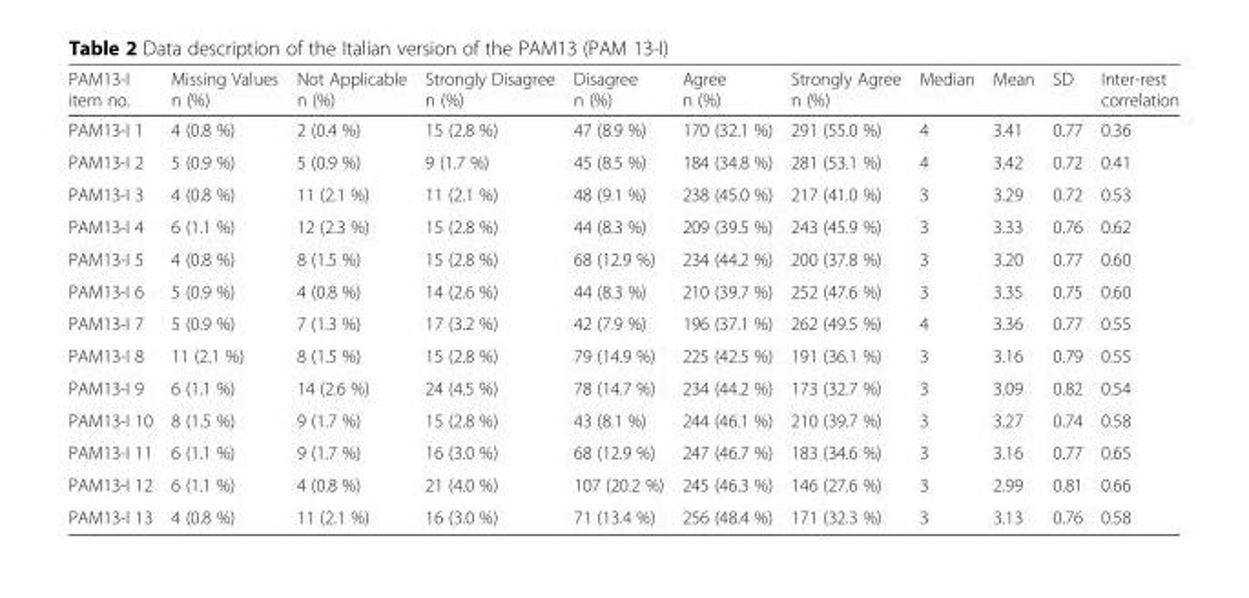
<table><thead><tr><td>PAM13-I item no.</td><td>Missing Values n (%)</td><td>Not Applicable n (%)</td><td>Strongly Disagree n (%)</td><td>Disagree n (%)</td><td>Agree n (%)</td><td>Strongly Agree n (%)</td><td>Median</td><td>Mean</td><td>SD</td><td>Inter-rest correlation</td></tr></thead><tbody><tr><td>PAM13-I 1</td><td>4 (0.8 %)</td><td>2 (0.4 %)</td><td>15 (2.8 %)</td><td>47 (8.9 %)</td><td>170 (32.1 %)</td><td>291 (55.0 %)</td><td>4</td><td>3.41</td><td>0.77</td><td>0.36</td></tr><tr><td>PAM13-I 2</td><td>5 (0.9 %)</td><td>5 (0.9 %)</td><td>9 (1.7 %)</td><td>45 (8.5 %)</td><td>184 (34.8 %)</td><td>281 (53.1 %)</td><td>4</td><td>3.42</td><td>0.72</td><td>0.41</td></tr><tr><td>PAM13-I 3</td><td>4 (0.8 %)</td><td>11 (2.1 %)</td><td>11 (2.1 %)</td><td>48 (9.1 %)</td><td>238 (45.0 %)</td><td>217 (41.0 %)</td><td>3</td><td>3.29</td><td>0.72</td><td>0.53</td></tr><tr><td>PAM13-I 4</td><td>6 (1.1 %)</td><td>12 (2.3 %)</td><td>15 (2.8 %)</td><td>44 (8.3 %)</td><td>209 (39.5 %)</td><td>243 (45.9 %)</td><td>3</td><td>3.33</td><td>0.76</td><td>0.62</td></tr><tr><td>PAM13-I 5</td><td>4 (0.8 %)</td><td>8 (1.5 %)</td><td>15 (2.8 %)</td><td>68 (12.9 %)</td><td>234 (44.2 %)</td><td>200 (37.8 %)</td><td>3</td><td>3.20</td><td>0.77</td><td>0.60</td></tr><tr><td>PAM13-I 6</td><td>5 (0.9 %)</td><td>4 (0.8 %)</td><td>14 (2.6 %)</td><td>44 (8.3 %)</td><td>210 (39.7 %)</td><td>252 (47.6 %)</td><td>3</td><td>3.35</td><td>0.75</td><td>0.60</td></tr><tr><td>PAM13-I 7</td><td>5 (0.9 %)</td><td>7 (1.3 %)</td><td>17 (3.2 %)</td><td>42 (7.9 %)</td><td>196 (37.1 %)</td><td>262 (49.5 %)</td><td>4</td><td>3.36</td><td>0.77</td><td>0.55</td></tr><tr><td>PAM13-I 8</td><td>11 (2.1 %)</td><td>8 (1.5 %)</td><td>15 (2.8 %)</td><td>79 (14.9 %)</td><td>225 (42.5 %)</td><td>191 (36.1 %)</td><td>3</td><td>3.16</td><td>0.79</td><td>0.55</td></tr><tr><td>PAM13-I 9</td><td>6 (1.1 %)</td><td>14 (2.6 %)</td><td>24 (4.5 %)</td><td>78 (14.7 %)</td><td>234 (44.2 %)</td><td>173 (32.7 %)</td><td>3</td><td>3.09</td><td>0.82</td><td>0.54</td></tr><tr><td>PAM13-I 10</td><td>8 (1.5 %)</td><td>9 (1.7 %)</td><td>15 (2.8 %)</td><td>43 (8.1 %)</td><td>244 (46.1 %)</td><td>210 (39.7 %)</td><td>3</td><td>3.27</td><td>0.74</td><td>0.58</td></tr><tr><td>PAM13-I 11</td><td>6 (1.1 %)</td><td>9 (1.7 %)</td><td>16 (3.0 %)</td><td>68 (12.9 %)</td><td>247 (46.7 %)</td><td>183 (34.6 %)</td><td>3</td><td>3.16</td><td>0.77</td><td>0.65</td></tr><tr><td>PAM13-I 12</td><td>6 (1.1 %)</td><td>4 (0.8 %)</td><td>21 (4.0 %)</td><td>107 (20.2 %)</td><td>245 (46.3 %)</td><td>146 (27.6 %)</td><td>3</td><td>2.99</td><td>0.81</td><td>0.66</td></tr><tr><td>PAM13-I 13</td><td>4 (0.8 %)</td><td>11 (2.1 %)</td><td>16 (3.0 %)</td><td>71 (13.4 %)</td><td>256 (48.4 %)</td><td>171 (32.3 %)</td><td>3</td><td>3.13</td><td>0.76</td><td>0.58</td></tr></tbody></table>